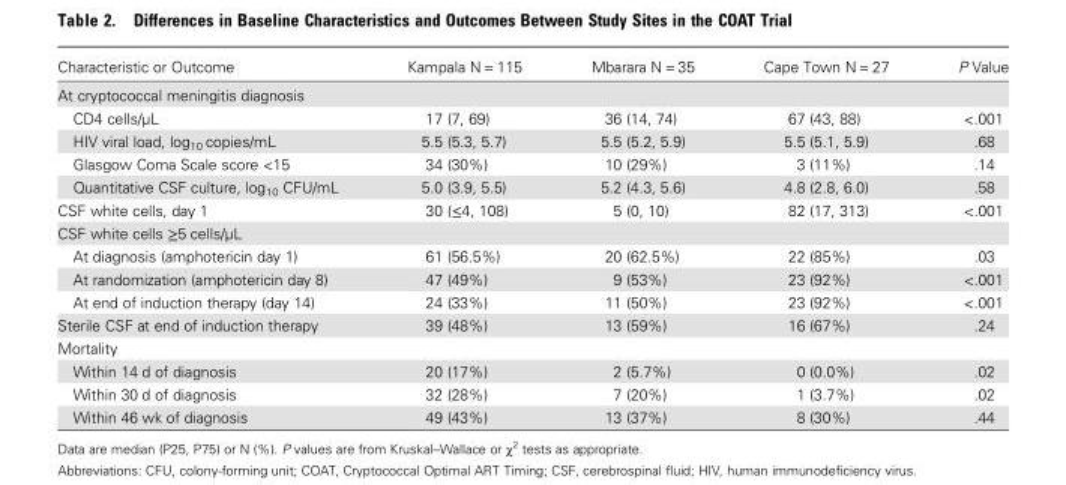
<table><thead><tr><td>Characteristic or Outcome</td><td>Kampala N = 115</td><td>Mbarara N = 35</td><td>Cape Town N = 27</td><td>P Value</td></tr></thead><tbody><tr><td colspan="5">At cryptococcal meningitis diagnosis</td></tr><tr><td>CD4 cells/µL</td><td>17 (7, 69)</td><td>36 (14, 74)</td><td>67 (43, 88)</td><td>&lt;.001</td></tr><tr><td>HIV viral load, log<sub>10</sub> copies/mL</td><td>5.5 (5.3, 5.7)</td><td>5.5 (5.2, 5.9)</td><td>5.5 (5.1, 5.9)</td><td>.68</td></tr><tr><td>Glasgow Coma Scale score &lt;15</td><td>34 (30%)</td><td>10 (29%)</td><td>3 (11%)</td><td>.14</td></tr><tr><td>Quantitative CSF culture, log<sub>10</sub> CFU/mL</td><td>5.0 (3.9, 5.5)</td><td>5.2 (4.3, 5.6)</td><td>4.8 (2.8, 6.0)</td><td>.58</td></tr><tr><td>CSF white cells, day 1</td><td>30 (≤4, 108)</td><td>5 (0, 10)</td><td>82 (17, 313)</td><td>&lt;.001</td></tr><tr><td colspan="5">CSF white cells ≥5 cells/µL</td></tr><tr><td>At diagnosis (amphotericin day 1)</td><td>61 (56.5%)</td><td>20 (62.5%)</td><td>22 (85%)</td><td>.03</td></tr><tr><td>At randomization (amphotericin day 8)</td><td>47 (49%)</td><td>9 (53%)</td><td>23 (92%)</td><td>&lt;.001</td></tr><tr><td>At end of induction therapy (day 14)</td><td>24 (33%)</td><td>11 (50%)</td><td>23 (92%)</td><td>&lt;.001</td></tr><tr><td>Sterile CSF at end of induction therapy</td><td>39 (48%)</td><td>13 (59%)</td><td>16 (67%)</td><td>.24</td></tr><tr><td colspan="5">Mortality</td></tr><tr><td>Within 14 d of diagnosis</td><td>20 (17%)</td><td>2 (5.7%)</td><td>0 (0.0%)</td><td>.02</td></tr><tr><td>Within 30 d of diagnosis</td><td>32 (28%)</td><td>7 (20%)</td><td>1 (3.7%)</td><td>.02</td></tr><tr><td>Within 46 wk of diagnosis</td><td>49 (43%)</td><td>13 (37%)</td><td>8 (30%)</td><td>.44</td></tr></tbody></table>